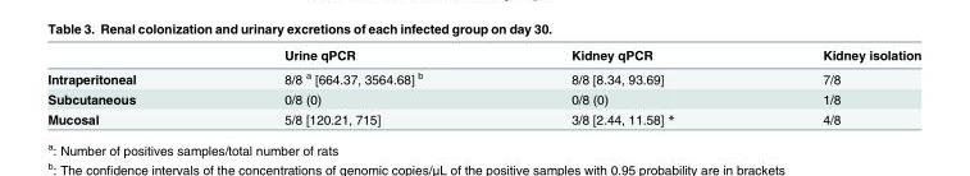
<table><thead><tr><td></td><td>Urine qPCR</td><td>Kidney qPCR</td><td>Kidney isolation</td></tr></thead><tbody><tr><td>Intraperitoneal</td><td>8/8 <sup>a</sup> [664.37, 3564.68] <sup>b</sup></td><td>8/8 [8.34, 93.69]</td><td>7/8</td></tr><tr><td>Subcutaneous</td><td>0/8 (0)</td><td>0/8 (0)</td><td>1/8</td></tr><tr><td>Mucosal</td><td>5/8 [120.21, 715]</td><td>3/8 [2.44, 11.58] *</td><td>4/8</td></tr></tbody></table>